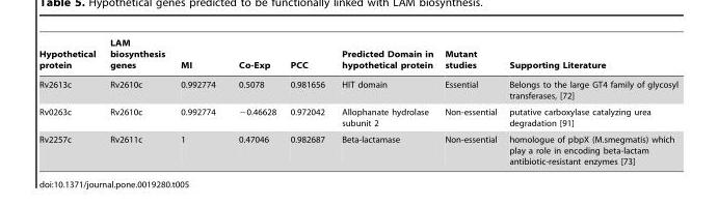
<table><thead><tr><td>Hypothetical protein</td><td>LAM biosynthesis genes</td><td>MI</td><td>Co-Exp</td><td>PCC</td><td>Predicted Domain in hypothetical protein</td><td>Mutant studies</td><td>Supporting Literature</td></tr></thead><tbody><tr><td>Rv2613c</td><td>Rv2610c</td><td>0.992774</td><td>0.5078</td><td>0.981656</td><td>HIT domain</td><td>Essential</td><td>Belongs to the large GT4 family of glycosyl transferases, [72]</td></tr><tr><td>Rv0263c</td><td>Rv2610c</td><td>0.992774</td><td>−0.46628</td><td>0.972042</td><td>Allophanate hydrolase subunit 2</td><td>Non-essential</td><td>putative carboxylase catalyzing urea degradation [91]</td></tr><tr><td>Rv2257c</td><td>Rv2611c</td><td>1</td><td>0.47046</td><td>0.982687</td><td>Beta-lactamase</td><td>Non-essential</td><td>homologue of pbpX (M.smegmatis) which play a role in encoding beta-lactam antibiotic-resistant enzymes [73]</td></tr></tbody></table>